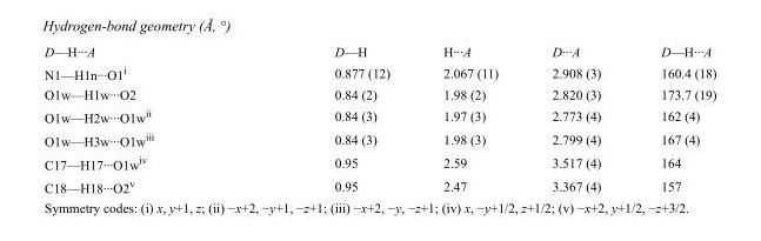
<table><tbody><tr><td>D—H···A</td><td>D—H</td><td>H···A</td><td>D···A</td><td>D—H···A</td></tr><tr><td>N1—H1n···O1<sup>i</sup></td><td>0.877 (12)</td><td>2.067 (11)</td><td>2.908 (3)</td><td>160.4 (18)</td></tr><tr><td>O1w—H1w···O2</td><td>0.84 (2)</td><td>1.98 (2)</td><td>2.820 (3)</td><td>173.7 (19)</td></tr><tr><td>O1w—H2w···O1w<sup>ii</sup></td><td>0.84 (3)</td><td>1.97 (3)</td><td>2.773 (4)</td><td>162 (4)</td></tr><tr><td>O1w—H3w···O1w<sup>iii</sup></td><td>0.84 (3)</td><td>1.98 (3)</td><td>2.799 (4)</td><td>167 (4)</td></tr><tr><td>C17—H17···O1w<sup>iv</sup></td><td>0.95</td><td>2.59</td><td>3.517 (4)</td><td>164</td></tr><tr><td>C18—H18···O2<sup>v</sup></td><td>0.95</td><td>2.47</td><td>3.367 (4)</td><td>157</td></tr></tbody></table>